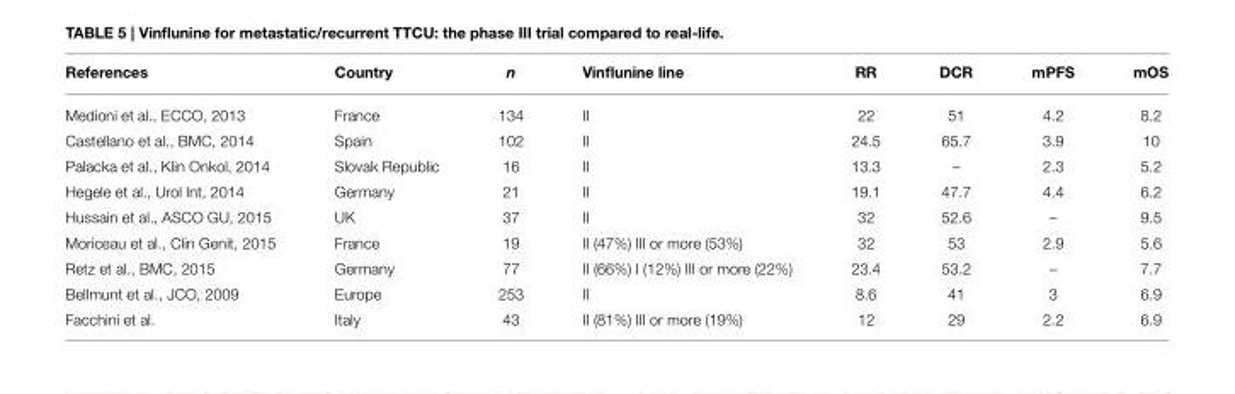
<table><thead><tr><td>References</td><td>Country</td><td>n</td><td>Vinflunine line</td><td>RR</td><td>DCR</td><td>mPFS</td><td>mOS</td></tr></thead><tbody><tr><td>Medioni et al., ECCO, 2013</td><td>France</td><td>134</td><td>II</td><td>22</td><td>51</td><td>4.2</td><td>8.2</td></tr><tr><td>Castellano et al., BMC, 2014</td><td>Spain</td><td>102</td><td>II</td><td>24.5</td><td>65.7</td><td>3.9</td><td>10</td></tr><tr><td>Palacka et al., Klin Onkol, 2014</td><td>Slovak Republic</td><td>16</td><td>II</td><td>13.3</td><td>–</td><td>2.3</td><td>5.2</td></tr><tr><td>Hegele et al., Urol Int, 2014</td><td>Germany</td><td>21</td><td>II</td><td>19.1</td><td>47.7</td><td>4.4</td><td>6.2</td></tr><tr><td>Hussain et al., ASCO GU, 2015</td><td>UK</td><td>37</td><td>II</td><td>32</td><td>52.6</td><td>–</td><td>9.5</td></tr><tr><td>Moriceau et al., Clin Genit, 2015</td><td>France</td><td>19</td><td>II (47%) III or more (53%)</td><td>32</td><td>53</td><td>2.9</td><td>5.6</td></tr><tr><td>Retz et al., BMC, 2015</td><td>Germany</td><td>77</td><td>II (66%) I (12%) III or more (22%)</td><td>23.4</td><td>53.2</td><td>–</td><td>7.7</td></tr><tr><td>Bellmunt et al., JCO, 2009</td><td>Europe</td><td>253</td><td>II</td><td>8.6</td><td>41</td><td>3</td><td>6.9</td></tr><tr><td>Facchini et al.</td><td>Italy</td><td>43</td><td>II (81%) III or more (19%)</td><td>12</td><td>29</td><td>2.2</td><td>6.9</td></tr></tbody></table>